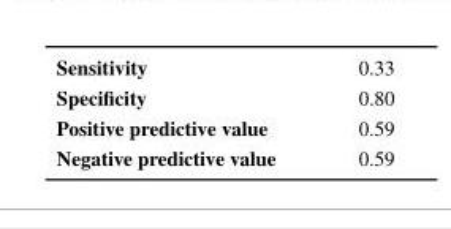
<table><tbody><tr><td>Sensitivity</td><td>0.33</td></tr><tr><td>Specificity</td><td>0.80</td></tr><tr><td>Positive predictive value</td><td>0.59</td></tr><tr><td>Negative predictive value</td><td>0.59</td></tr></tbody></table>